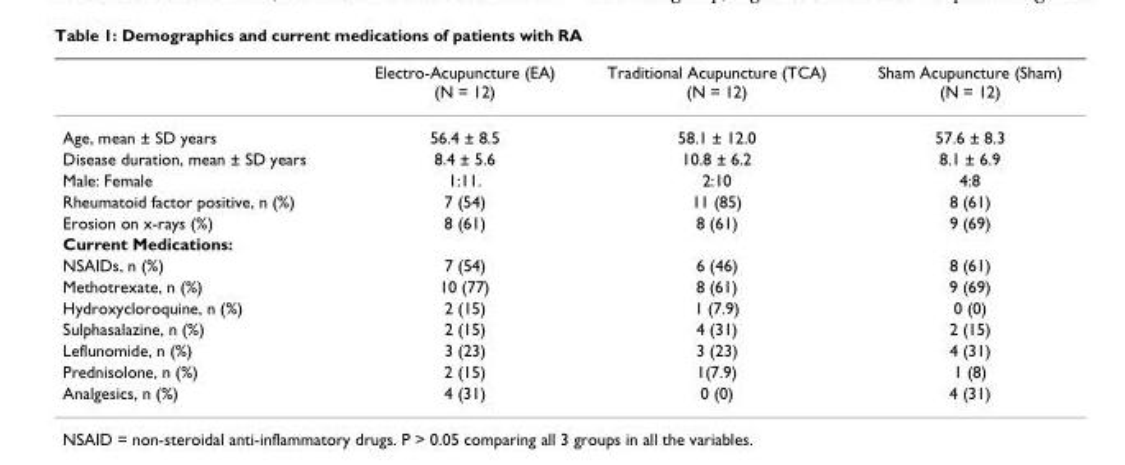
<table><thead><tr><td></td><td>Electro-Acupuncture (EA) (N = 12)</td><td>Traditional Acupuncture (TCA) (N = 12)</td><td>Sham Acupuncture (Sham) (N = 12)</td></tr></thead><tbody><tr><td>Age, mean ± SD years</td><td>56.4 ± 8.5</td><td>58.1 ± 12.0</td><td>57.6 ± 8.3</td></tr><tr><td>Disease duration, mean ± SD years</td><td>8.4 ± 5.6</td><td>10.8 ± 6.2</td><td>8.1 ± 6.9</td></tr><tr><td>Male: Female</td><td>1:11.</td><td>2:10</td><td>4:8</td></tr><tr><td>Rheumatoid factor positive, n (%)</td><td>7 (54)</td><td>11 (85)</td><td>8 (61)</td></tr><tr><td>Erosion on x-rays (%)</td><td>8 (61)</td><td>8 (61)</td><td>9 (69)</td></tr><tr><td colspan="4">Current Medications:</td></tr><tr><td>NSAIDs, n (%)</td><td>7 (54)</td><td>6 (46)</td><td>8 (61)</td></tr><tr><td>Methotrexate, n (%)</td><td>10 (77)</td><td>8 (61)</td><td>9 (69)</td></tr><tr><td>Hydroxycloroquine, n (%)</td><td>2 (15)</td><td>1 (7.9)</td><td>0 (0)</td></tr><tr><td>Sulphasalazine, n (%)</td><td>2 (15)</td><td>4 (31)</td><td>2 (15)</td></tr><tr><td>Leflunomide, n (%)</td><td>3 (23)</td><td>3 (23)</td><td>4 (31)</td></tr><tr><td>Prednisolone, n (%)</td><td>2 (15)</td><td>1(7.9)</td><td>1 (8)</td></tr><tr><td>Analgesics, n (%)</td><td>4 (31)</td><td>0 (0)</td><td>4 (31)</td></tr></tbody></table>